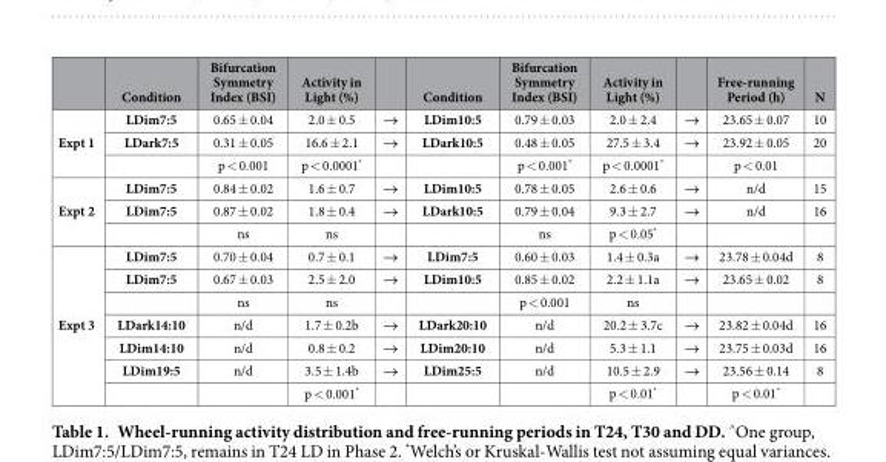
<table><thead><tr><td></td><td>Condition</td><td>Bifurcation Symmetry Index (BSI)</td><td>Activity in Light (%)</td><td></td><td>Condition</td><td>Bifurcation Symmetry Index (BSI)</td><td>Activity in Light (%)</td><td></td><td>Free-running Period (h)</td><td>N</td></tr></thead><tbody><tr><td rowspan="3">Expt 1</td><td>LDim7:5</td><td>0.65 ± 0.04</td><td>2.0 ± 0.5</td><td>→</td><td>LDim10:5</td><td>0.79 ± 0.03</td><td>2.0 ± 2.4</td><td>→</td><td>23.65 ± 0.07</td><td>10</td></tr><tr><td>LDark7:5</td><td>0.31 ± 0.05</td><td>16.6 ± 2.1</td><td>→</td><td>LDark10:5</td><td>0.48 ± 0.05</td><td>27.5 ± 3.4</td><td>→</td><td>23.92 ± 0.05</td><td>20</td></tr><tr><td></td><td>p &lt; 0.001</td><td>p &lt; 0.0001*</td><td></td><td></td><td>p &lt; 0.001*</td><td>p &lt; 0.0001*</td><td></td><td>p &lt; 0.01</td><td></td></tr><tr><td rowspan="3">Expt 2</td><td>LDim7:5</td><td>0.84 ± 0.02</td><td>1.6 ± 0.7</td><td>→</td><td>LDim10:5</td><td>0.78 ± 0.05</td><td>2.6 ± 0.6</td><td>→</td><td>n/d</td><td>15</td></tr><tr><td>LDim7:5</td><td>0.87 ± 0.02</td><td>1.8 ± 0.4</td><td>→</td><td>LDark10:5</td><td>0.79 ± 0.04</td><td>9.3 ± 2.7</td><td>→</td><td>n/d</td><td>16</td></tr><tr><td></td><td>ns</td><td>ns</td><td></td><td></td><td>ns</td><td>p &lt; 0.05*</td><td></td><td></td><td></td></tr><tr><td rowspan="7">Expt 3</td><td>LDim7:5</td><td>0.70 ± 0.04</td><td>0.7 ± 0.1</td><td>→</td><td>LDim7:5</td><td>0.60 ± 0.03</td><td>1.4 ± 0.3a</td><td>→</td><td>23.78 ± 0.04d</td><td>8</td></tr><tr><td>LDim7:5</td><td>0.67 ± 0.03</td><td>2.5 ± 2.0</td><td>→</td><td>LDim10:5</td><td>0.85 ± 0.02</td><td>2.2 ± 1.1a</td><td>→</td><td>23.65 ± 0.02</td><td>8</td></tr><tr><td></td><td>ns</td><td>ns</td><td></td><td></td><td>p &lt; 0.001</td><td>ns</td><td></td><td></td><td></td></tr><tr><td>LDark14:10</td><td>n/d</td><td>1.7 ± 0.2b</td><td>→</td><td>LDark20:10</td><td>n/d</td><td>20.2 ± 3.7c</td><td>→</td><td>23.82 ± 0.04d</td><td>16</td></tr><tr><td>LDim14:10</td><td>n/d</td><td>0.8 ± 0.2</td><td>→</td><td>LDim20:10</td><td>n/d</td><td>5.3 ± 1.1</td><td>→</td><td>23.75 ± 0.03d</td><td>16</td></tr><tr><td>LDim19:5</td><td>n/d</td><td>3.5 ± 1.4b</td><td>→</td><td>LDim25:5</td><td>n/d</td><td>10.5 ± 2.9</td><td>→</td><td>23.56 ± 0.14</td><td>8</td></tr><tr><td></td><td></td><td>p &lt; 0.001*</td><td></td><td></td><td></td><td>p &lt; 0.01*</td><td></td><td>p &lt; 0.01*</td><td></td></tr></tbody></table>